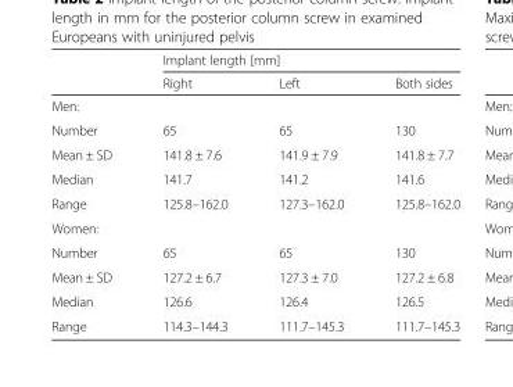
<table><thead><tr><td rowspan="2"></td><td colspan="3">Implant length [mm]</td></tr><tr><td>Right</td><td>Left</td><td>Both sides</td></tr></thead><tbody><tr><td colspan="4">Men:</td></tr><tr><td>Number</td><td>65</td><td>65</td><td>130</td></tr><tr><td>Mean ± SD</td><td>141.8 ± 7.6</td><td>141.9 ± 7.9</td><td>141.8 ± 7.7</td></tr><tr><td>Median</td><td>141.7</td><td>141.2</td><td>141.6</td></tr><tr><td>Range</td><td>125.8–162.0</td><td>127.3–162.0</td><td>125.8–162.0</td></tr><tr><td colspan="4">Women:</td></tr><tr><td>Number</td><td>65</td><td>65</td><td>130</td></tr><tr><td>Mean ± SD</td><td>127.2 ± 6.7</td><td>127.3 ± 7.0</td><td>127.2 ± 6.8</td></tr><tr><td>Median</td><td>126.6</td><td>126.4</td><td>126.5</td></tr><tr><td>Range</td><td>114.3–144.3</td><td>111.7–145.3</td><td>111.7–145.3</td></tr></tbody></table>